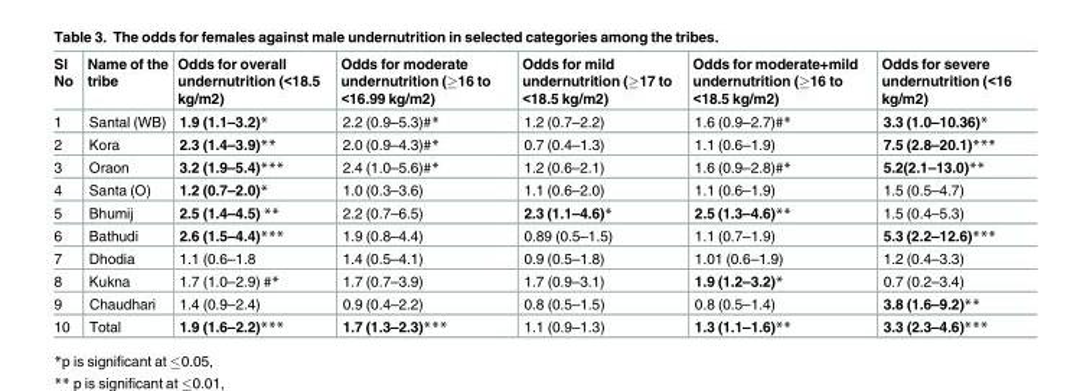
<table><thead><tr><td>Sl No</td><td>Name of the tribe</td><td>Odds for overall undernutrition (&lt;18.5 kg/m2)</td><td>Odds for moderate undernutrition (≥16 to &lt;16.99 kg/m2)</td><td>Odds for mild undernutrition (≥17 to &lt;18.5 kg/m2)</td><td>Odds for moderate+mild undernutrition (≥16 to &lt;18.5 kg/m2)</td><td>Odds for severe undernutrition (&lt;16 kg/m2)</td></tr></thead><tbody><tr><td>1</td><td>Santal (WB)</td><td>1.9 (1.1–3.2)*</td><td>2.2 (0.9–5.3)#*</td><td>1.2 (0.7–2.2)</td><td>1.6 (0.9–2.7)#*</td><td>3.3 (1.0–10.36)*</td></tr><tr><td>2</td><td>Kora</td><td>2.3 (1.4–3.9)**</td><td>2.0 (0.9–4.3)#*</td><td>0.7 (0.4–1.3)</td><td>1.1 (0.6–1.9)</td><td>7.5 (2.8–20.1)***</td></tr><tr><td>3</td><td>Oraon</td><td>3.2 (1.9–5.4)***</td><td>2.4 (1.0–5.6)#*</td><td>1.2 (0.6–2.1)</td><td>1.6 (0.9–2.8)#*</td><td>5.2(2.1–13.0)**</td></tr><tr><td>4</td><td>Santa (O)</td><td>1.2 (0.7–2.0)*</td><td>1.0 (0.3–3.6)</td><td>1.1 (0.6–2.0)</td><td>1.1 (0.6–1.9)</td><td>1.5 (0.5–4.7)</td></tr><tr><td>5</td><td>Bhumij</td><td>2.5 (1.4–4.5) **</td><td>2.2 (0.7–6.5)</td><td>2.3 (1.1–4.6)*</td><td>2.5 (1.3–4.6)**</td><td>1.5 (0.4–5.3)</td></tr><tr><td>6</td><td>Bathudi</td><td>2.6 (1.5–4.4)***</td><td>1.9 (0.8–4.4)</td><td>0.89 (0.5–1.5)</td><td>1.1 (0.7–1.9)</td><td>5.3 (2.2–12.6)***</td></tr><tr><td>7</td><td>Dhodia</td><td>1.1 (0.6–1.8</td><td>1.4 (0.5–4.1)</td><td>0.9 (0.5–1.8)</td><td>1.01 (0.6–1.9)</td><td>1.2 (0.4–3.3)</td></tr><tr><td>8</td><td>Kukna</td><td>1.7 (1.0–2.9) #*</td><td>1.7 (0.7–3.9)</td><td>1.7 (0.9–3.1)</td><td>1.9 (1.2–3.2)*</td><td>0.7 (0.2–3.4)</td></tr><tr><td>9</td><td>Chaudhari</td><td>1.4 (0.9–2.4)</td><td>0.9 (0.4–2.2)</td><td>0.8 (0.5–1.5)</td><td>0.8 (0.5–1.4)</td><td>3.8 (1.6–9.2)**</td></tr><tr><td>10</td><td>Total</td><td>1.9 (1.6–2.2)***</td><td>1.7 (1.3–2.3)***</td><td>1.1 (0.9–1.3)</td><td>1.3 (1.1–1.6)**</td><td>3.3 (2.3–4.6)***</td></tr></tbody></table>